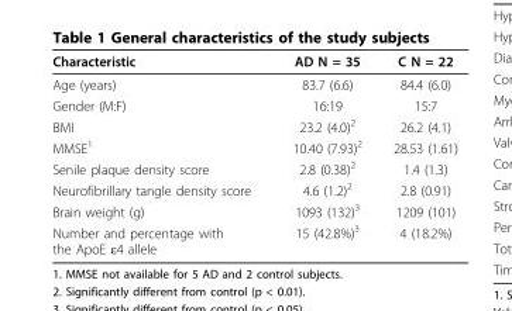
<table><thead><tr><td>Characteristic</td><td>AD N = 35</td><td>C N = 22</td></tr></thead><tbody><tr><td>Age (years)</td><td>83.7 (6.6)</td><td>84.4 (6.0)</td></tr><tr><td>Gender (M:F)</td><td>16:19</td><td>15:7</td></tr><tr><td>BMI</td><td>23.2 (4.0)<sup>2</sup></td><td>26.2 (4.1)</td></tr><tr><td>MMSE<sup>1</sup></td><td>10.40 (7.93)<sup>2</sup></td><td>28.53 (1.61)</td></tr><tr><td>Senile plaque density score</td><td>2.8 (0.38)<sup>2</sup></td><td>1.4 (1.3)</td></tr><tr><td>Neurofibrillary tangle density score</td><td>4.6 (1.2)<sup>2</sup></td><td>2.8 (0.91)</td></tr><tr><td>Brain weight (g)</td><td>1093 (132)<sup>3</sup></td><td>1209 (101)</td></tr><tr><td>Number and percentage with the ApoE ε4 allele</td><td>15 (42.8%)<sup>3</sup></td><td>4 (18.2%)</td></tr></tbody></table>